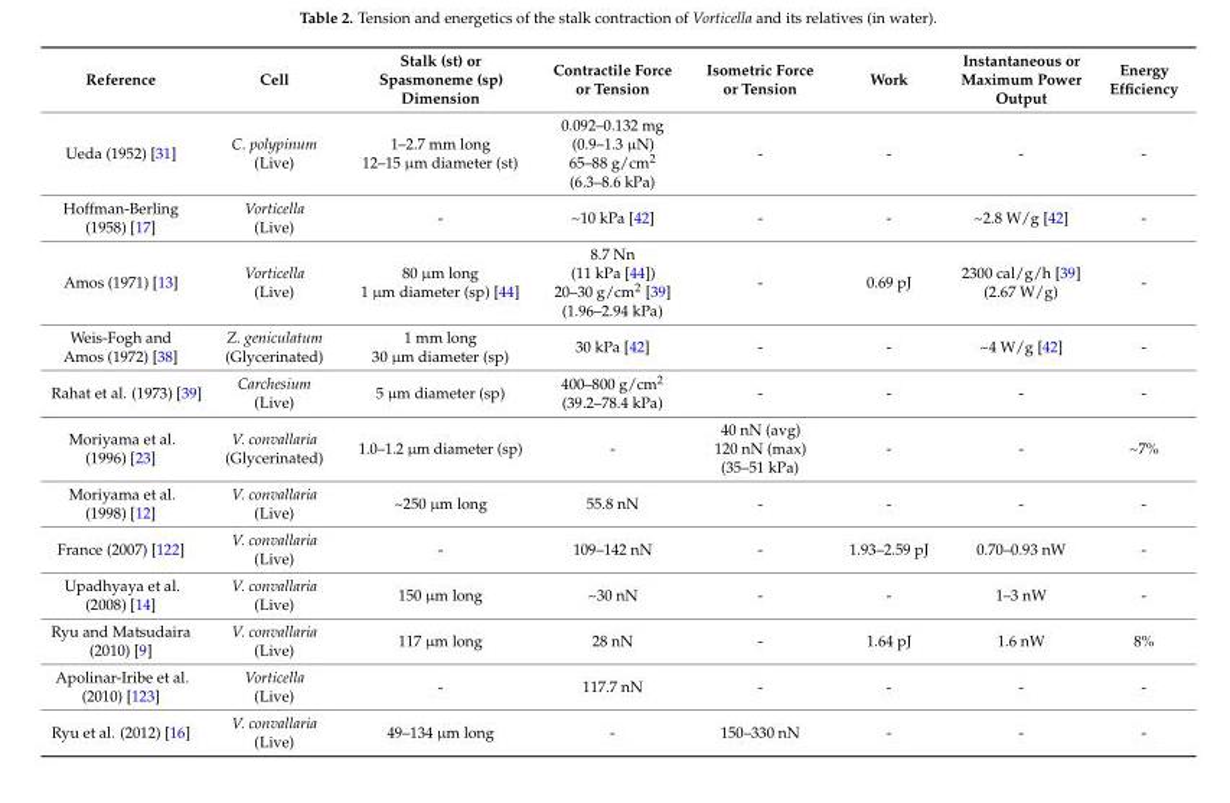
<table><thead><tr><td>Reference</td><td>Cell</td><td>Stalk (st) or Spasmoneme (sp) Dimension</td><td>Contractile Force or Tension</td><td>Isometric Force or Tension</td><td>Work</td><td>Instantaneous or Maximum Power Output</td><td>Energy Efficiency</td></tr></thead><tbody><tr><td>Ueda (1952) [31]</td><td>C. polypinum (Live)</td><td>1–2.7 mm long 12–15 µm diameter (st)</td><td>0.092–0.132 mg (0.9–1.3 µN) 65–88 g/cm<sup>2</sup> (6.3–8.6 kPa)</td><td>-</td><td>-</td><td>-</td><td>-</td></tr><tr><td>Hoffman-Berling (1958) [17]</td><td>Vorticella (Live)</td><td>-</td><td>~10 kPa [42]</td><td>-</td><td>-</td><td>~2.8 W/g [42]</td><td>-</td></tr><tr><td>Amos (1971) [13]</td><td>Vorticella (Live)</td><td>80 µm long 1 µm diameter (sp) [44]</td><td>8.7 Nn (11 kPa [44]) 20–30 g/cm<sup>2</sup> [39] (1.96–2.94 kPa)</td><td>-</td><td>0.69 pJ</td><td>2300 cal/g/h [39] (2.67 W/g)</td><td>-</td></tr><tr><td>Weis-Fogh and Amos (1972) [38]</td><td>Z. geniculatum (Glycerinated)</td><td>1 mm long 30 µm diameter (sp)</td><td>30 kPa [42]</td><td>-</td><td>-</td><td>~4 W/g [42]</td><td>-</td></tr><tr><td>Rahat et al. (1973) [39]</td><td>Carchesium (Live)</td><td>5 µm diameter (sp)</td><td>400–800 g/cm<sup>2</sup> (39.2–78.4 kPa)</td><td>-</td><td>-</td><td>-</td><td>-</td></tr><tr><td>Moriyama et al. (1996) [23]</td><td>V. convallaria (Glycerinated)</td><td>1.0–1.2 µm diameter (sp)</td><td>-</td><td>40 nN (avg) 120 nN (max) (35–51 kPa)</td><td>-</td><td>-</td><td>~7%</td></tr><tr><td>Moriyama et al. (1998) [12]</td><td>V. convallaria (Live)</td><td>~250 µm long</td><td>55.8 nN</td><td>-</td><td>-</td><td>-</td><td>-</td></tr><tr><td>France (2007) [122]</td><td>V. convallaria (Live)</td><td>-</td><td>109–142 nN</td><td>-</td><td>1.93–2.59 pJ</td><td>0.70–0.93 nW</td><td>-</td></tr><tr><td>Upadhyaya et al. (2008) [14]</td><td>V. convallaria (Live)</td><td>150 µm long</td><td>~30 nN</td><td>-</td><td>-</td><td>1–3 nW</td><td>-</td></tr><tr><td>Ryu and Matsudaira (2010) [9]</td><td>V. convallaria (Live)</td><td>117 µm long</td><td>28 nN</td><td>-</td><td>1.64 pJ</td><td>1.6 nW</td><td>8%</td></tr><tr><td>Apolinar-Iribe et al. (2010) [123]</td><td>Vorticella (Live)</td><td>-</td><td>117.7 nN</td><td>-</td><td>-</td><td>-</td><td>-</td></tr><tr><td>Ryu et al. (2012) [16]</td><td>V. convallaria (Live)</td><td>49–134 µm long</td><td>-</td><td>150–330 nN</td><td>-</td><td>-</td><td>-</td></tr></tbody></table>